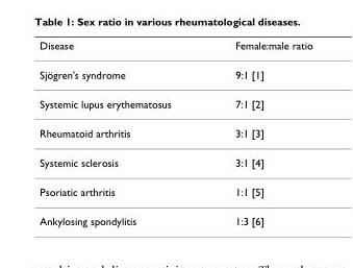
<table><thead><tr><td>Disease</td><td>Female:male ratio</td></tr></thead><tbody><tr><td>Sjögren&#x27;s syndrome</td><td>9:1 [1]</td></tr><tr><td>Systemic lupus erythematosus</td><td>7:1 [2]</td></tr><tr><td>Rheumatoid arthritis</td><td>3:1 [3]</td></tr><tr><td>Systemic sclerosis</td><td>3:1 [4]</td></tr><tr><td>Psoriatic arthritis</td><td>1:1 [5]</td></tr><tr><td>Ankylosing spondylitis</td><td>1:3 [6]</td></tr></tbody></table>